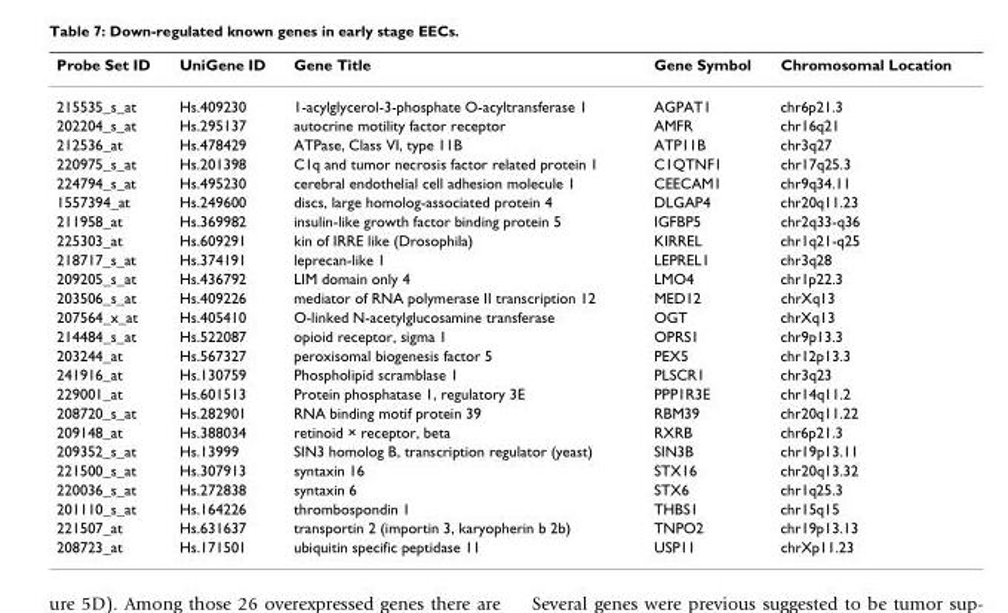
<table><thead><tr><td>Probe Set ID</td><td>UniGene ID</td><td>Gene Title</td><td>Gene Symbol</td><td>Chromosomal Location</td></tr></thead><tbody><tr><td>215535_s_at</td><td>Hs.409230</td><td>1-acylglycerol-3-phosphate O-acyltransferase 1</td><td>AGPAT1</td><td>chr6p21.3</td></tr><tr><td>202204_s_at</td><td>Hs.295137</td><td>autocrine motility factor receptor</td><td>AMFR</td><td>chr16q21</td></tr><tr><td>212536_at</td><td>Hs.478429</td><td>ATPase, Class VI, type 11B</td><td>ATP11B</td><td>chr3q27</td></tr><tr><td>220975_s_at</td><td>Hs.201398</td><td>C1q and tumor necrosis factor related protein 1</td><td>C1QTNF1</td><td>chr17q25.3</td></tr><tr><td>224794_s_at</td><td>Hs.495230</td><td>cerebral endothelial cell adhesion molecule 1</td><td>CEECAM1</td><td>chr9q34.11</td></tr><tr><td>1557394_at</td><td>Hs.249600</td><td>discs, large homolog-associated protein 4</td><td>DLGAP4</td><td>chr20q11.23</td></tr><tr><td>211958_at</td><td>Hs.369982</td><td>insulin-like growth factor binding protein 5</td><td>IGFBP5</td><td>chr2q33-q36</td></tr><tr><td>225303_at</td><td>Hs.609291</td><td>kin of IRRE like (Drosophila)</td><td>KIRREL</td><td>chr1q21-q25</td></tr><tr><td>218717_s_at</td><td>Hs.374191</td><td>leprecan-like 1</td><td>LEPREL1</td><td>chr3q28</td></tr><tr><td>209205_s_at</td><td>Hs.436792</td><td>LIM domain only 4</td><td>LMO4</td><td>chr1p22.3</td></tr><tr><td>203506_s_at</td><td>Hs.409226</td><td>mediator of RNA polymerase II transcription 12</td><td>MED12</td><td>chrXq13</td></tr><tr><td>207564_x_at</td><td>Hs.405410</td><td>O-linked N-acetylglucosamine transferase</td><td>OGT</td><td>chrXq13</td></tr><tr><td>214484_s_at</td><td>Hs.522087</td><td>opioid receptor, sigma 1</td><td>OPRS1</td><td>chr9p13.3</td></tr><tr><td>203244_at</td><td>Hs.567327</td><td>peroxisomal biogenesis factor 5</td><td>PEX5</td><td>chr12p13.3</td></tr><tr><td>241916_at</td><td>Hs.130759</td><td>Phospholipid scramblase 1</td><td>PLSCR1</td><td>chr3q23</td></tr><tr><td>229001_at</td><td>Hs.601513</td><td>Protein phosphatase 1, regulatory 3E</td><td>PPP1R3E</td><td>chr14q11.2</td></tr><tr><td>208720_s_at</td><td>Hs.282901</td><td>RNA binding motif protein 39</td><td>RBM39</td><td>chr20q11.22</td></tr><tr><td>209148_at</td><td>Hs.388034</td><td>retinoid × receptor, beta</td><td>RXRB</td><td>chr6p21.3</td></tr><tr><td>209352_s_at</td><td>Hs.13999</td><td>SIN3 homolog B, transcription regulator (yeast)</td><td>SIN3B</td><td>chr19p13.11</td></tr><tr><td>221500_s_at</td><td>Hs.307913</td><td>syntaxin 16</td><td>STX16</td><td>chr20q13.32</td></tr><tr><td>220036_s_at</td><td>Hs.272838</td><td>syntaxin 6</td><td>STX6</td><td>chr1q25.3</td></tr><tr><td>201110_s_at</td><td>Hs.164226</td><td>thrombospondin 1</td><td>THBS1</td><td>chr15q15</td></tr><tr><td>221507_at</td><td>Hs.631637</td><td>transportin 2 (importin 3, karyopherin b 2b)</td><td>TNPO2</td><td>chr19p13.13</td></tr><tr><td>208723_at</td><td>Hs.171501</td><td>ubiquitin specific peptidase 11</td><td>USP11</td><td>chrXp11.23</td></tr></tbody></table>